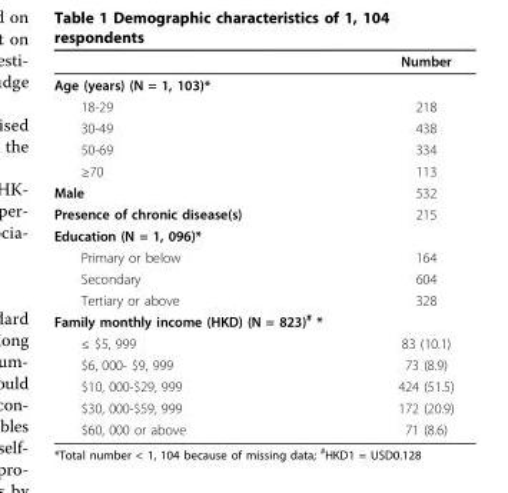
<table><thead><tr><td></td><td>Number</td></tr></thead><tbody><tr><td colspan="2">Age (years) (N = 1, 103)*</td></tr><tr><td>18-29</td><td>218</td></tr><tr><td>30-49</td><td>438</td></tr><tr><td>50-69</td><td>334</td></tr><tr><td>≥70</td><td>113</td></tr><tr><td>Male</td><td>532</td></tr><tr><td>Presence of chronic disease(s)</td><td>215</td></tr><tr><td colspan="2">Education (N = 1, 096)*</td></tr><tr><td>Primary or below</td><td>164</td></tr><tr><td>Secondary</td><td>604</td></tr><tr><td>Tertiary or above</td><td>328</td></tr><tr><td colspan="2">Family monthly income (HKD) (N = 823)<sup>#</sup> *</td></tr><tr><td>≤ $5, 999</td><td>83 (10.1)</td></tr><tr><td>$6, 000- $9, 999</td><td>73 (8.9)</td></tr><tr><td>$10, 000-$29, 999</td><td>424 (51.5)</td></tr><tr><td>$30, 000-$59, 999</td><td>172 (20.9)</td></tr><tr><td>$60, 000 or above</td><td>71 (8.6)</td></tr></tbody></table>